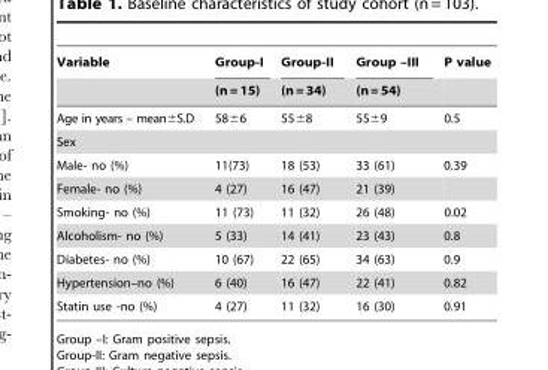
<table><thead><tr><td rowspan="2">Variable</td><td rowspan="2">Group-I (n = 15)</td><td rowspan="2">Group-II (n = 34)</td><td rowspan="2">Group –III (n = 54)</td><td rowspan="2">P value</td></tr><tr></tr></thead><tbody><tr><td>Age in years – mean±S.D</td><td>58±6</td><td>55±8</td><td>55±9</td><td>0.5</td></tr><tr><td colspan="5">Sex</td></tr><tr><td>Male- no (%)</td><td>11(73)</td><td>18 (53)</td><td>33 (61)</td><td>0.39</td></tr><tr><td>Female- no (%)</td><td>4 (27)</td><td>16 (47)</td><td>21 (39)</td><td></td></tr><tr><td>Smoking- no (%)</td><td>11 (73)</td><td>11 (32)</td><td>26 (48)</td><td>0.02</td></tr><tr><td>Alcoholism- no (%)</td><td>5 (33)</td><td>14 (41)</td><td>23 (43)</td><td>0.8</td></tr><tr><td>Diabetes- no (%)</td><td>10 (67)</td><td>22 (65)</td><td>34 (63)</td><td>0.9</td></tr><tr><td>Hypertension–no (%)</td><td>6 (40)</td><td>16 (47)</td><td>22 (41)</td><td>0.82</td></tr><tr><td>Statin use -no (%)</td><td>4 (27)</td><td>11 (32)</td><td>16 (30)</td><td>0.91</td></tr></tbody></table>